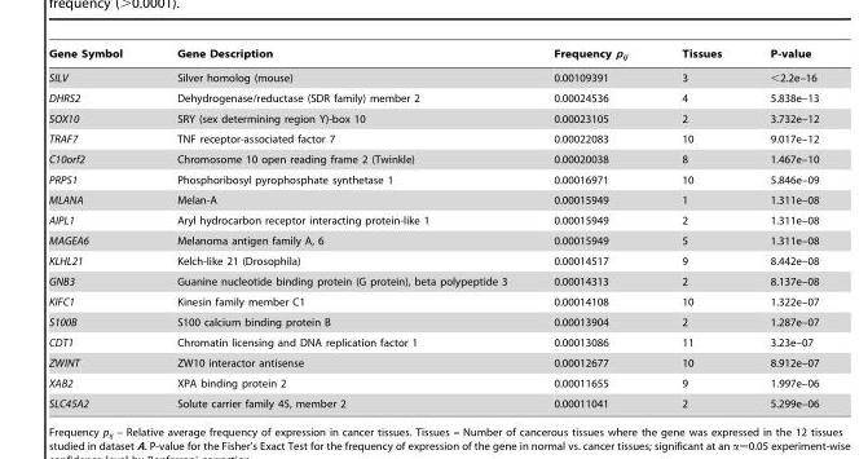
<table><thead><tr><td>Gene Symbol</td><td>Gene Description</td><td>Frequency p<sub>ij</sub></td><td>Tissues</td><td>P-value</td></tr></thead><tbody><tr><td>SILV</td><td>Silver homolog (mouse)</td><td>0.00109391</td><td>3</td><td>&lt;2.2e–16</td></tr><tr><td>DHRS2</td><td>Dehydrogenase/reductase (SDR family) member 2</td><td>0.00024536</td><td>4</td><td>5.838e–13</td></tr><tr><td>SOX10</td><td>SRY (sex determining region Y)-box 10</td><td>0.00023105</td><td>2</td><td>3.732e–12</td></tr><tr><td>TRAF7</td><td>TNF receptor-associated factor 7</td><td>0.00022083</td><td>10</td><td>9.017e–12</td></tr><tr><td>C10orf2</td><td>Chromosome 10 open reading frame 2 (Twinkle)</td><td>0.00020038</td><td>8</td><td>1.467e–10</td></tr><tr><td>PRPS1</td><td>Phosphoribosyl pyrophosphate synthetase 1</td><td>0.00016971</td><td>10</td><td>5.846e–09</td></tr><tr><td>MLANA</td><td>Melan-A</td><td>0.00015949</td><td>1</td><td>1.311e–08</td></tr><tr><td>AIPL1</td><td>Aryl hydrocarbon receptor interacting protein-like 1</td><td>0.00015949</td><td>2</td><td>1.311e–08</td></tr><tr><td>MAGEA6</td><td>Melanoma antigen family A, 6</td><td>0.00015949</td><td>5</td><td>1.311e–08</td></tr><tr><td>KLHL21</td><td>Kelch-like 21 (Drosophila)</td><td>0.00014517</td><td>9</td><td>8.442e–08</td></tr><tr><td>GNB3</td><td>Guanine nucleotide binding protein (G protein), beta polypeptide 3</td><td>0.00014313</td><td>2</td><td>8.137e–08</td></tr><tr><td>KIFC1</td><td>Kinesin family member C1</td><td>0.00014108</td><td>10</td><td>1.322e–07</td></tr><tr><td>S100B</td><td>S100 calcium binding protein B</td><td>0.00013904</td><td>2</td><td>1.287e–07</td></tr><tr><td>CDT1</td><td>Chromatin licensing and DNA replication factor 1</td><td>0.00013086</td><td>11</td><td>3.23e–07</td></tr><tr><td>ZWINT</td><td>ZW10 interactor antisense</td><td>0.00012677</td><td>10</td><td>8.912e–07</td></tr><tr><td>XAB2</td><td>XPA binding protein 2</td><td>0.00011655</td><td>9</td><td>1.997e–06</td></tr><tr><td>SLC45A2</td><td>Solute carrier family 45, member 2</td><td>0.00011041</td><td>2</td><td>5.299e–06</td></tr></tbody></table>